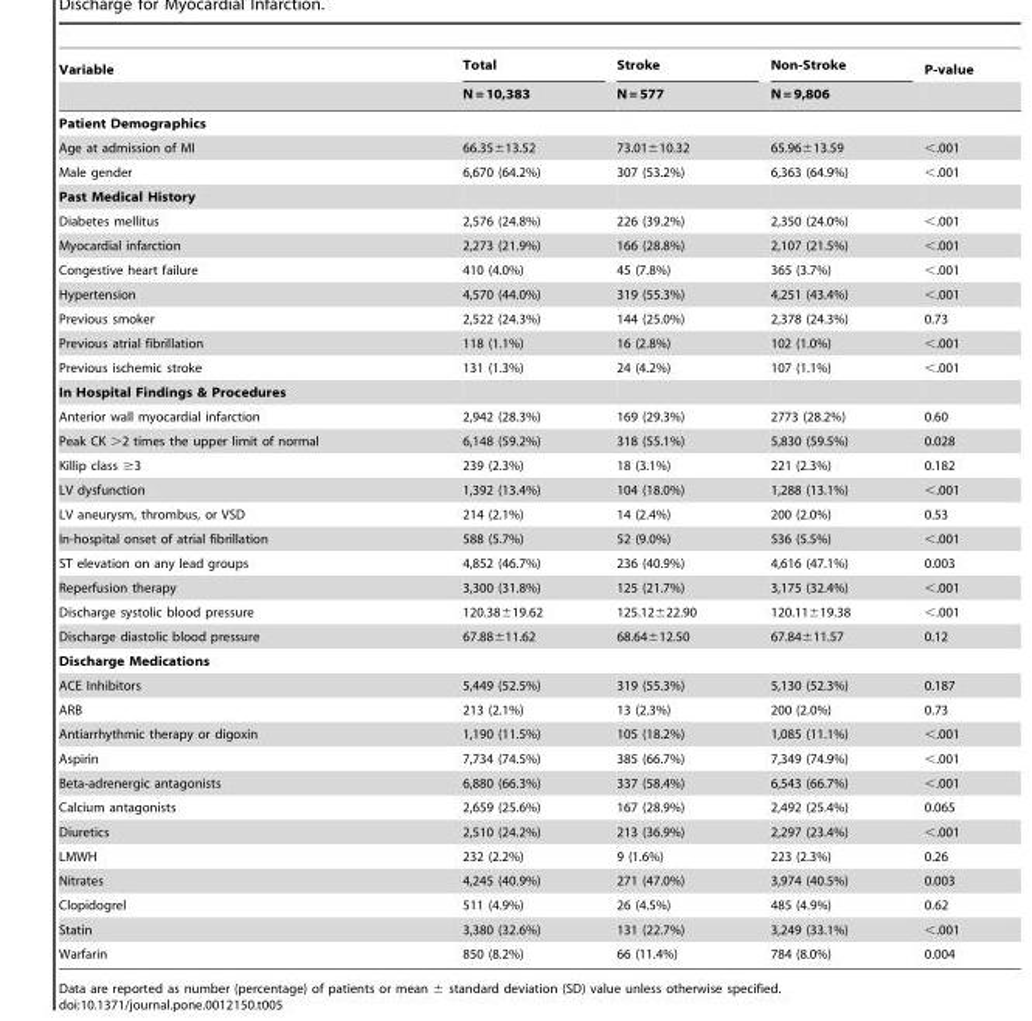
<table><thead><tr><td rowspan="2">Variable</td><td rowspan="2">Total N = 10,383</td><td rowspan="2">Stroke N = 577</td><td rowspan="2">Non-Stroke N = 9,806</td><td rowspan="2">P-value</td></tr><tr></tr></thead><tbody><tr><td colspan="5">Patient Demographics</td></tr><tr><td>Age at admission of MI</td><td>66.35±13.52</td><td>73.01±10.32</td><td>65.96±13.59</td><td>&lt;.001</td></tr><tr><td>Male gender</td><td>6,670 (64.2%)</td><td>307 (53.2%)</td><td>6,363 (64.9%)</td><td>&lt;.001</td></tr><tr><td colspan="5">Past Medical History</td></tr><tr><td>Diabetes mellitus</td><td>2,576 (24.8%)</td><td>226 (39.2%)</td><td>2,350 (24.0%)</td><td>&lt;.001</td></tr><tr><td>Myocardial infarction</td><td>2,273 (21.9%)</td><td>166 (28.8%)</td><td>2,107 (21.5%)</td><td>&lt;.001</td></tr><tr><td>Congestive heart failure</td><td>410 (4.0%)</td><td>45 (7.8%)</td><td>365 (3.7%)</td><td>&lt;.001</td></tr><tr><td>Hypertension</td><td>4,570 (44.0%)</td><td>319 (55.3%)</td><td>4,251 (43.4%)</td><td>&lt;.001</td></tr><tr><td>Previous smoker</td><td>2,522 (24.3%)</td><td>144 (25.0%)</td><td>2,378 (24.3%)</td><td>0.73</td></tr><tr><td>Previous atrial fibrillation</td><td>118 (1.1%)</td><td>16 (2.8%)</td><td>102 (1.0%)</td><td>&lt;.001</td></tr><tr><td>Previous ischemic stroke</td><td>131 (1.3%)</td><td>24 (4.2%)</td><td>107 (1.1%)</td><td>&lt;.001</td></tr><tr><td colspan="5">In Hospital Findings &amp; Procedures</td></tr><tr><td>Anterior wall myocardial infarction</td><td>2,942 (28.3%)</td><td>169 (29.3%)</td><td>2773 (28.2%)</td><td>0.60</td></tr><tr><td>Peak CK &gt;2 times the upper limit of normal</td><td>6,148 (59.2%)</td><td>318 (55.1%)</td><td>5,830 (59.5%)</td><td>0.028</td></tr><tr><td>Killip class ≥3</td><td>239 (2.3%)</td><td>18 (3.1%)</td><td>221 (2.3%)</td><td>0.182</td></tr><tr><td>LV dysfunction</td><td>1,392 (13.4%)</td><td>104 (18.0%)</td><td>1,288 (13.1%)</td><td>&lt;.001</td></tr><tr><td>LV aneurysm, thrombus, or VSD</td><td>214 (2.1%)</td><td>14 (2.4%)</td><td>200 (2.0%)</td><td>0.53</td></tr><tr><td>In-hospital onset of atrial fibrillation</td><td>588 (5.7%)</td><td>52 (9.0%)</td><td>536 (5.5%)</td><td>&lt;.001</td></tr><tr><td>ST elevation on any lead groups</td><td>4,852 (46.7%)</td><td>236 (40.9%)</td><td>4,616 (47.1%)</td><td>0.003</td></tr><tr><td>Reperfusion therapy</td><td>3,300 (31.8%)</td><td>125 (21.7%)</td><td>3,175 (32.4%)</td><td>&lt;.001</td></tr><tr><td>Discharge systolic blood pressure</td><td>120.38±19.62</td><td>125.12±22.90</td><td>120.11±19.38</td><td>&lt;.001</td></tr><tr><td>Discharge diastolic blood pressure</td><td>67.88±11.62</td><td>68.64±12.50</td><td>67.84±11.57</td><td>0.12</td></tr><tr><td colspan="5">Discharge Medications</td></tr><tr><td>ACE Inhibitors</td><td>5,449 (52.5%)</td><td>319 (55.3%)</td><td>5,130 (52.3%)</td><td>0.187</td></tr><tr><td>ARB</td><td>213 (2.1%)</td><td>13 (2.3%)</td><td>200 (2.0%)</td><td>0.73</td></tr><tr><td>Antiarrhythmic therapy or digoxin</td><td>1,190 (11.5%)</td><td>105 (18.2%)</td><td>1,085 (11.1%)</td><td>&lt;.001</td></tr><tr><td>Aspirin</td><td>7,734 (74.5%)</td><td>385 (66.7%)</td><td>7,349 (74.9%)</td><td>&lt;.001</td></tr><tr><td>Beta-adrenergic antagonists</td><td>6,880 (66.3%)</td><td>337 (58.4%)</td><td>6,543 (66.7%)</td><td>&lt;.001</td></tr><tr><td>Calcium antagonists</td><td>2,659 (25.6%)</td><td>167 (28.9%)</td><td>2,492 (25.4%)</td><td>0.065</td></tr><tr><td>Diuretics</td><td>2,510 (24.2%)</td><td>213 (36.9%)</td><td>2,297 (23.4%)</td><td>&lt;.001</td></tr><tr><td>LMWH</td><td>232 (2.2%)</td><td>9 (1.6%)</td><td>223 (2.3%)</td><td>0.26</td></tr><tr><td>Nitrates</td><td>4,245 (40.9%)</td><td>271 (47.0%)</td><td>3,974 (40.5%)</td><td>0.003</td></tr><tr><td>Clopidogrel</td><td>511 (4.9%)</td><td>26 (4.5%)</td><td>485 (4.9%)</td><td>0.62</td></tr><tr><td>Statin</td><td>3,380 (32.6%)</td><td>131 (22.7%)</td><td>3,249 (33.1%)</td><td>&lt;.001</td></tr><tr><td>Warfarin</td><td>850 (8.2%)</td><td>66 (11.4%)</td><td>784 (8.0%)</td><td>0.004</td></tr></tbody></table>